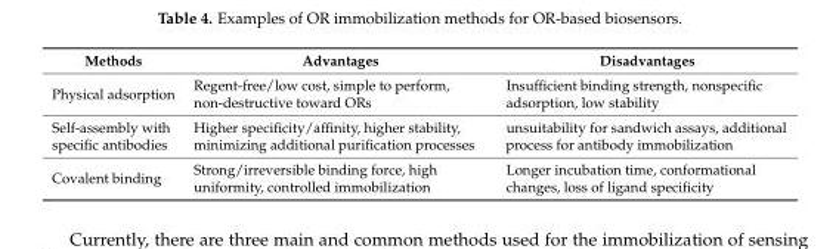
<table><thead><tr><td>Methods</td><td>Advantages</td><td>Disadvantages</td></tr></thead><tbody><tr><td>Physical adsorption</td><td>Regent-free/low cost, simple to perform, non-destructive toward ORs</td><td>Insufficient binding strength, nonspecific adsorption, low stability</td></tr><tr><td>Self-assembly with specific antibodies</td><td>Higher specificity/affinity, higher stability, minimizing additional purification processes</td><td>unsuitability for sandwich assays, additional process for antibody immobilization</td></tr><tr><td>Covalent binding</td><td>Strong/irreversible binding force, high uniformity, controlled immobilization</td><td>Longer incubation time, conformational changes, loss of ligand specificity</td></tr></tbody></table>